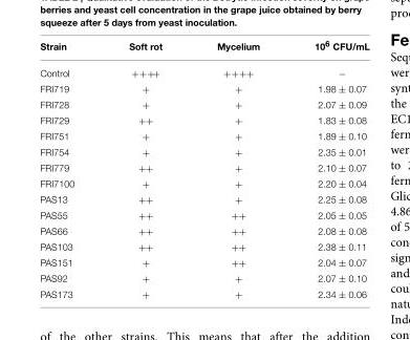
<table><thead><tr><td>Strain</td><td>Soft rot</td><td>Mycelium</td><td>10<sup>6</sup> CFU/mL</td></tr></thead><tbody><tr><td>Control</td><td>++++</td><td>++++</td><td>−</td></tr><tr><td>FRI719</td><td>+</td><td>+</td><td>1.98 ± 0.07</td></tr><tr><td>FRI728</td><td>+</td><td>+</td><td>2.07 ± 0.09</td></tr><tr><td>FRI729</td><td>++</td><td>+</td><td>1.83 ± 0.08</td></tr><tr><td>FRI751</td><td>+</td><td>+</td><td>1.89 ± 0.10</td></tr><tr><td>FRI754</td><td>+</td><td>+</td><td>2.35 ± 0.01</td></tr><tr><td>FRI779</td><td>++</td><td>+</td><td>2.10 ± 0.07</td></tr><tr><td>FRI7100</td><td>+</td><td>+</td><td>2.20 ± 0.04</td></tr><tr><td>PAS13</td><td>++</td><td>+</td><td>2.25 ± 0.08</td></tr><tr><td>PAS55</td><td>++</td><td>++</td><td>2.05 ± 0.05</td></tr><tr><td>PAS66</td><td>++</td><td>++</td><td>2.08 ± 0.08</td></tr><tr><td>PAS103</td><td>++</td><td>++</td><td>2.38 ± 0.11</td></tr><tr><td>PAS151</td><td>+</td><td>++</td><td>2.04 ± 0.07</td></tr><tr><td>PAS92</td><td>+</td><td>+</td><td>2.07 ± 0.10</td></tr><tr><td>PAS173</td><td>+</td><td>+</td><td>2.34 ± 0.06</td></tr></tbody></table>